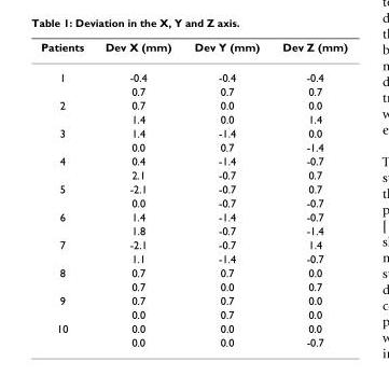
<table><thead><tr><td>Patients</td><td>Dev X (mm)</td><td>Dev Y (mm)</td><td>Dev Z (mm)</td></tr></thead><tbody><tr><td rowspan="2">1</td><td>-0.4</td><td>-0.4</td><td>-0.4</td></tr><tr><td>0.7</td><td>0.7</td><td>0.7</td></tr><tr><td rowspan="2">2</td><td>0.7</td><td>0.0</td><td>0.0</td></tr><tr><td>1.4</td><td>0.0</td><td>1.4</td></tr><tr><td rowspan="2">3</td><td>1.4</td><td>-1.4</td><td>0.0</td></tr><tr><td>0.0</td><td>0.7</td><td>-1.4</td></tr><tr><td rowspan="2">4</td><td>0.4</td><td>-1.4</td><td>-0.7</td></tr><tr><td>2.1</td><td>-0.7</td><td>0.7</td></tr><tr><td rowspan="2">5</td><td>-2.1</td><td>-0.7</td><td>0.7</td></tr><tr><td>0.0</td><td>-0.7</td><td>-0.7</td></tr><tr><td rowspan="2">6</td><td>1.4</td><td>-1.4</td><td>-0.7</td></tr><tr><td>1.8</td><td>-0.7</td><td>-1.4</td></tr><tr><td rowspan="2">7</td><td>-2.1</td><td>-0.7</td><td>1.4</td></tr><tr><td>1.1</td><td>-1.4</td><td>-0.7</td></tr><tr><td rowspan="2">8</td><td>0.7</td><td>0.7</td><td>0.0</td></tr><tr><td>0.7</td><td>0.0</td><td>0.7</td></tr><tr><td rowspan="2">9</td><td>0.7</td><td>0.7</td><td>0.0</td></tr><tr><td>0.0</td><td>0.7</td><td>0.0</td></tr><tr><td rowspan="2">10</td><td>0.0</td><td>0.0</td><td>0.0</td></tr><tr><td>0.0</td><td>0.0</td><td>-0.7</td></tr></tbody></table>